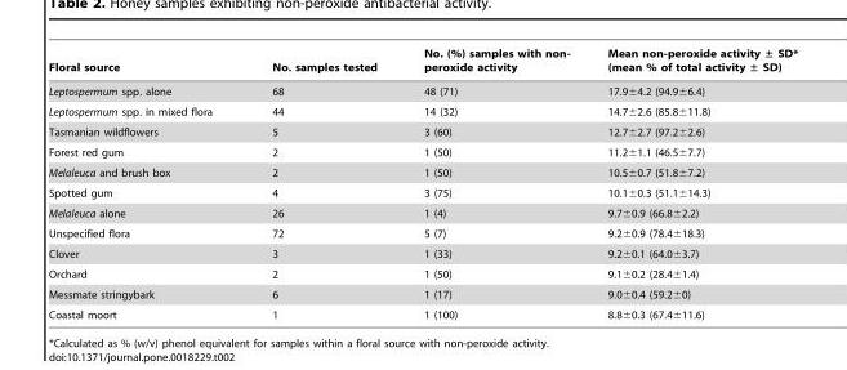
<table><thead><tr><td>Floral source</td><td>No. samples tested</td><td>No. (%) samples with non- peroxide activity</td><td>Mean non-peroxide activity ± SD* (mean % of total activity ± SD)</td></tr></thead><tbody><tr><td>Leptospermum spp. alone</td><td>68</td><td>48 (71)</td><td>17.9±4.2 (94.9±6.4)</td></tr><tr><td>Leptospermum spp. in mixed flora</td><td>44</td><td>14 (32)</td><td>14.7±2.6 (85.8±11.8)</td></tr><tr><td>Tasmanian wildflowers</td><td>5</td><td>3 (60)</td><td>12.7±2.7 (97.2±2.6)</td></tr><tr><td>Forest red gum</td><td>2</td><td>1 (50)</td><td>11.2±1.1 (46.5±7.7)</td></tr><tr><td>Melaleuca and brush box</td><td>2</td><td>1 (50)</td><td>10.5±0.7 (51.8±7.2)</td></tr><tr><td>Spotted gum</td><td>4</td><td>3 (75)</td><td>10.1±0.3 (51.1±14.3)</td></tr><tr><td>Melaleuca alone</td><td>26</td><td>1 (4)</td><td>9.7±0.9 (66.8±2.2)</td></tr><tr><td>Unspecified flora</td><td>72</td><td>5 (7)</td><td>9.2±0.9 (78.4±18.3)</td></tr><tr><td>Clover</td><td>3</td><td>1 (33)</td><td>9.2±0.1 (64.0±3.7)</td></tr><tr><td>Orchard</td><td>2</td><td>1 (50)</td><td>9.1±0.2 (28.4±1.4)</td></tr><tr><td>Messmate stringybark</td><td>6</td><td>1 (17)</td><td>9.0±0.4 (59.2±0)</td></tr><tr><td>Coastal moort</td><td>1</td><td>1 (100)</td><td>8.8±0.3 (67.4±11.6)</td></tr></tbody></table>